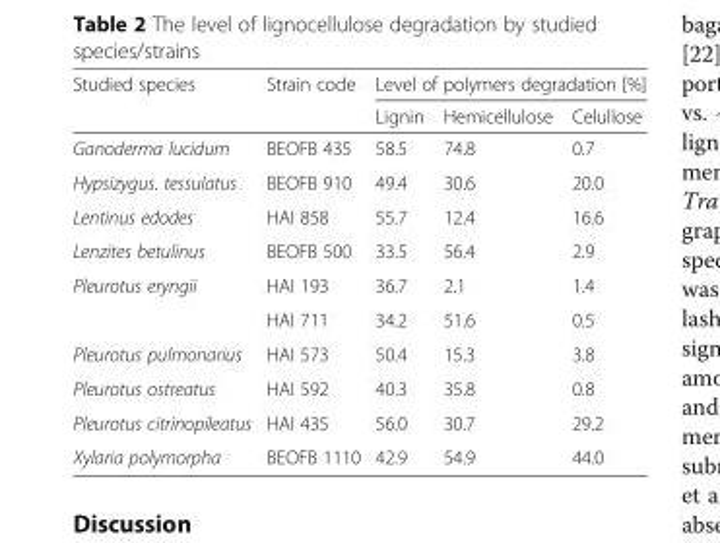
<table><thead><tr><td rowspan="2">Studied species</td><td rowspan="2">Strain code</td><td colspan="3">Level of polymers degradation [%]</td></tr><tr><td>Lignin</td><td>Hemicellulose</td><td>Celullose</td></tr></thead><tbody><tr><td>Ganoderma lucidum</td><td>BEOFB 435</td><td>58.5</td><td>74.8</td><td>0.7</td></tr><tr><td>Hypsizygus. tessulatus</td><td>BEOFB 910</td><td>49.4</td><td>30.6</td><td>20.0</td></tr><tr><td>Lentinus edodes</td><td>HAI 858</td><td>55.7</td><td>12.4</td><td>16.6</td></tr><tr><td>Lenzites betulinus</td><td>BEOFB 500</td><td>33.5</td><td>56.4</td><td>2.9</td></tr><tr><td rowspan="2">Pleurotus eryngii</td><td>HAI 193</td><td>36.7</td><td>2.1</td><td>1.4</td></tr><tr><td>HAI 711</td><td>34.2</td><td>51.6</td><td>0.5</td></tr><tr><td>Pleurotus pulmonarius</td><td>HAI 573</td><td>50.4</td><td>15.3</td><td>3.8</td></tr><tr><td>Pleurotus ostreatus</td><td>HAI 592</td><td>40.3</td><td>35.8</td><td>0.8</td></tr><tr><td>Pleurotus citrinopileatus</td><td>HAI 435</td><td>56.0</td><td>30.7</td><td>29.2</td></tr><tr><td>Xylaria polymorpha</td><td>BEOFB 1110</td><td>42.9</td><td>54.9</td><td>44.0</td></tr></tbody></table>